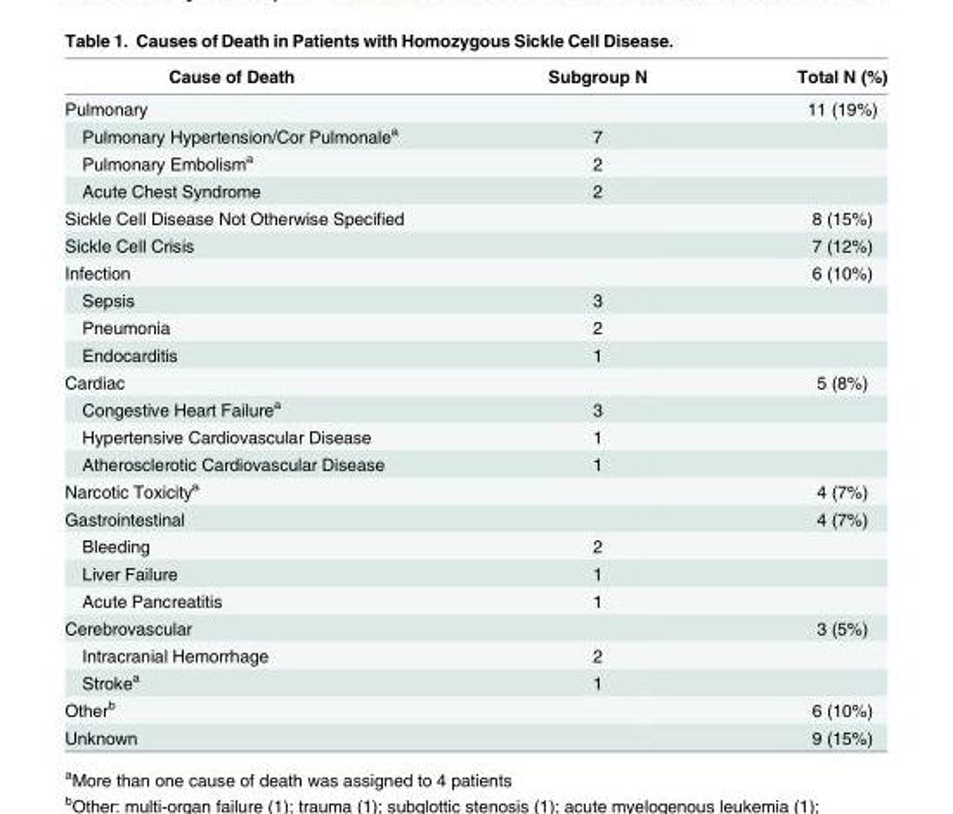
<table><thead><tr><td>Cause of Death</td><td>Subgroup N</td><td>Total N (%)</td></tr></thead><tbody><tr><td colspan="2">Pulmonary</td><td>11 (19%)</td></tr><tr><td>Pulmonary Hypertension/Cor Pulmonale<sup>a</sup></td><td>7</td><td></td></tr><tr><td>Pulmonary Embolism<sup>a</sup></td><td>2</td><td></td></tr><tr><td>Acute Chest Syndrome</td><td>2</td><td></td></tr><tr><td colspan="2">Sickle Cell Disease Not Otherwise Specified</td><td>8 (15%)</td></tr><tr><td colspan="2">Sickle Cell Crisis</td><td>7 (12%)</td></tr><tr><td colspan="2">Infection</td><td>6 (10%)</td></tr><tr><td>Sepsis</td><td>3</td><td></td></tr><tr><td>Pneumonia</td><td>2</td><td></td></tr><tr><td>Endocarditis</td><td>1</td><td></td></tr><tr><td colspan="2">Cardiac</td><td>5 (8%)</td></tr><tr><td>Congestive Heart Failure<sup>a</sup></td><td>3</td><td></td></tr><tr><td>Hypertensive Cardiovascular Disease</td><td>1</td><td></td></tr><tr><td>Atherosclerotic Cardiovascular Disease</td><td>1</td><td></td></tr><tr><td colspan="2">Narcotic Toxicity<sup>a</sup></td><td>4 (7%)</td></tr><tr><td colspan="2">Gastrointestinal</td><td>4 (7%)</td></tr><tr><td>Bleeding</td><td>2</td><td></td></tr><tr><td>Liver Failure</td><td>1</td><td></td></tr><tr><td>Acute Pancreatitis</td><td>1</td><td></td></tr><tr><td colspan="2">Cerebrovascular</td><td>3 (5%)</td></tr><tr><td>Intracranial Hemorrhage</td><td>2</td><td></td></tr><tr><td>Stroke<sup>a</sup></td><td>1</td><td></td></tr><tr><td colspan="2">Other<sup>b</sup></td><td>6 (10%)</td></tr><tr><td colspan="2">Unknown</td><td>9 (15%)</td></tr></tbody></table>